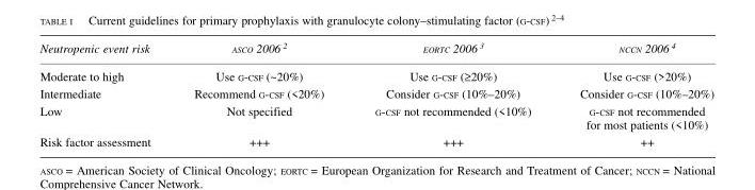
<table><thead><tr><td>Neutropenic event risk</td><td>ASCO 2006 2</td><td>EORTC 2006 3</td><td>NCCN 2006 <sup>4</sup></td></tr></thead><tbody><tr><td>Moderate to high</td><td>Use G-CSF (~20%)</td><td>Use G-CSF (≥20%)</td><td>Use G-CSF (&gt;20%)</td></tr><tr><td>Intermediate</td><td>Recommend G-CSF (&lt;20%)</td><td>Consider G-CSF (10%–20%)</td><td>Consider G-CSF (10%–20%)</td></tr><tr><td>Low</td><td>Not specified</td><td>G-CSF not recommended (&lt;10%)</td><td>G-CSF not recommended for most patients (&lt;10%)</td></tr><tr><td>Risk factor assessment</td><td>+++</td><td>+++</td><td>++</td></tr></tbody></table>